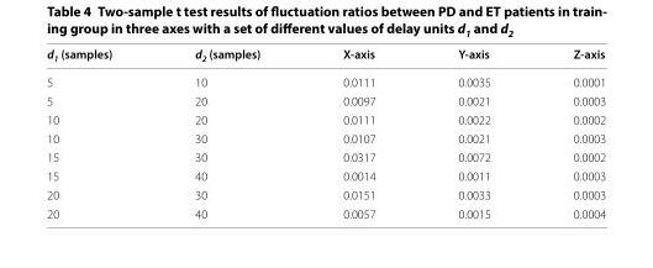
<table><thead><tr><td>d<sub>1</sub> (samples)</td><td>d<sub>2</sub> (samples)</td><td>X-axis</td><td>Y-axis</td><td>Z-axis</td></tr></thead><tbody><tr><td>5</td><td>10</td><td>0.0111</td><td>0.0035</td><td>0.0001</td></tr><tr><td>5</td><td>20</td><td>0.0097</td><td>0.0021</td><td>0.0003</td></tr><tr><td>10</td><td>20</td><td>0.0111</td><td>0.0022</td><td>0.0002</td></tr><tr><td>10</td><td>30</td><td>0.0107</td><td>0.0021</td><td>0.0003</td></tr><tr><td>15</td><td>30</td><td>0.0317</td><td>0.0072</td><td>0.0002</td></tr><tr><td>15</td><td>40</td><td>0.0014</td><td>0.0011</td><td>0.0003</td></tr><tr><td>20</td><td>30</td><td>0.0151</td><td>0.0033</td><td>0.0003</td></tr><tr><td>20</td><td>40</td><td>0.0057</td><td>0.0015</td><td>0.0004</td></tr></tbody></table>